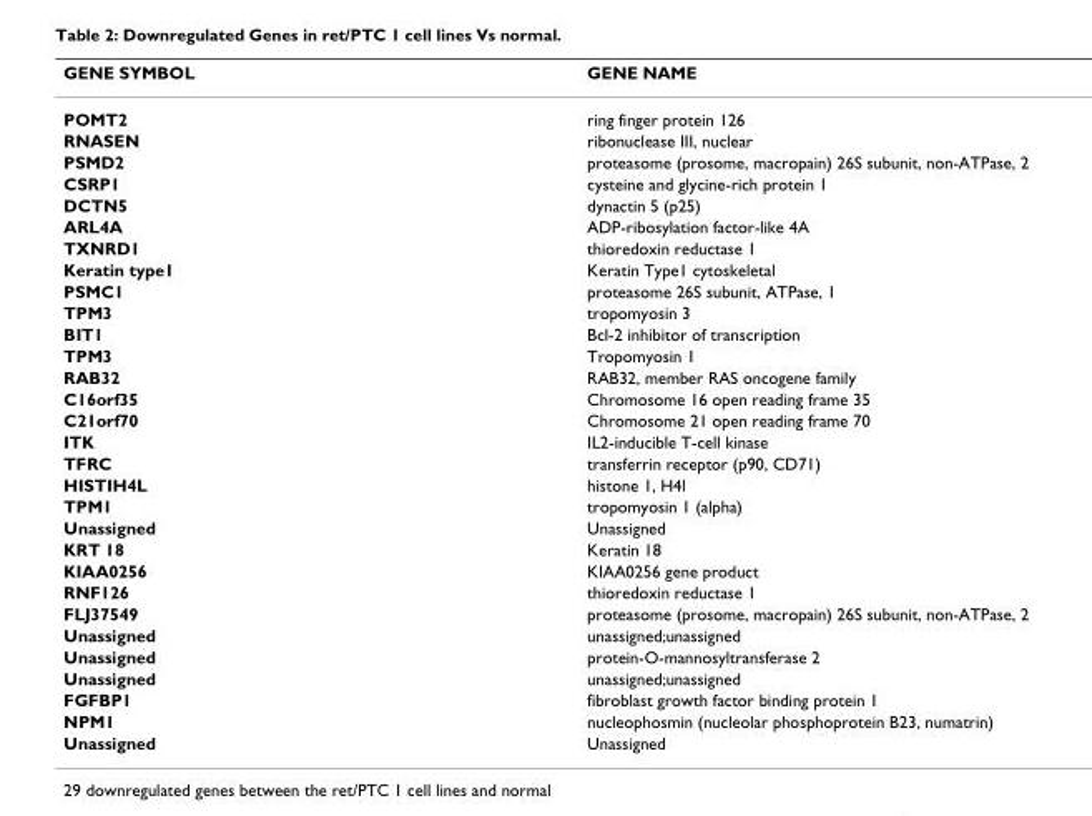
<table><thead><tr><td>GENE SYMBOL</td><td>GENE NAME</td></tr></thead><tbody><tr><td>POMT2</td><td>ring finger protein 126</td></tr><tr><td>RNASEN</td><td>ribonuclease III, nuclear</td></tr><tr><td>PSMD2</td><td>proteasome (prosome, macropain) 26S subunit, non-ATPase, 2</td></tr><tr><td>CSRP1</td><td>cysteine and glycine-rich protein 1</td></tr><tr><td>DCTN5</td><td>dynactin 5 (p25)</td></tr><tr><td>ARL4A</td><td>ADP-ribosylation factor-like 4A</td></tr><tr><td>TXNRD1</td><td>thioredoxin reductase 1</td></tr><tr><td>Keratin type1</td><td>Keratin Type1 cytoskeletal</td></tr><tr><td>PSMC1</td><td>proteasome 26S subunit, ATPase, 1</td></tr><tr><td>TPM3</td><td>tropomyosin 3</td></tr><tr><td>BIT1</td><td>Bcl-2 inhibitor of transcription</td></tr><tr><td>TPM3</td><td>Tropomyosin 1</td></tr><tr><td>RAB32</td><td>RAB32, member RAS oncogene family</td></tr><tr><td>C16orf35</td><td>Chromosome 16 open reading frame 35</td></tr><tr><td>C21orf70</td><td>Chromosome 21 open reading frame 70</td></tr><tr><td>ITK</td><td>IL2-inducible T-cell kinase</td></tr><tr><td>TFRC</td><td>transferrin receptor (p90, CD71)</td></tr><tr><td>HISTIH4L</td><td>histone 1, H4l</td></tr><tr><td>TPM1</td><td>tropomyosin 1 (alpha)</td></tr><tr><td>Unassigned</td><td>Unassigned</td></tr><tr><td>KRT 18</td><td>Keratin 18</td></tr><tr><td>KIAA0256</td><td>KIAA0256 gene product</td></tr><tr><td>RNF126</td><td>thioredoxin reductase 1</td></tr><tr><td>FLJ37549</td><td>proteasome (prosome, macropain) 26S subunit, non-ATPase, 2</td></tr><tr><td>Unassigned</td><td>unassigned;unassigned</td></tr><tr><td>Unassigned</td><td>protein-O-mannosyltransferase 2</td></tr><tr><td>Unassigned</td><td>unassigned;unassigned</td></tr><tr><td>FGFBP1</td><td>fibroblast growth factor binding protein 1</td></tr><tr><td>NPM1</td><td>nucleophosmin (nucleolar phosphoprotein B23, numatrin)</td></tr><tr><td>Unassigned</td><td>Unassigned</td></tr></tbody></table>